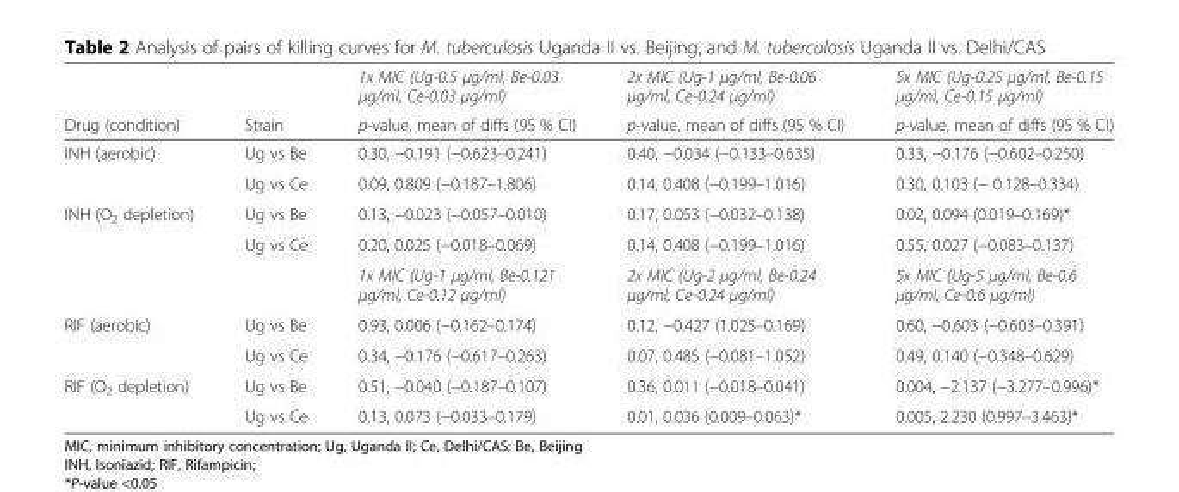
<table><thead><tr><td rowspan="2">Drug (condition)</td><td rowspan="2">Strain</td><td rowspan="2">1x MIC (Ug-0.5 μg/ml, Be-0.03 μg/ml, Ce-0.03 μg/ml) p-value, mean of diffs (95 % CI)</td><td rowspan="2">2x MIC (Ug-1 μg/ml, Be-0.06 μg/ml, Ce-0.24 μg/ml) p-value, mean of diffs (95 % CI)</td><td rowspan="2">5x MIC (Ug-0.25 μg/ml, Be-0.15 μg/ml, Ce-0.15 μg/ml) p-value, mean of diffs (95 % CI)</td></tr><tr></tr></thead><tbody><tr><td rowspan="2">INH (aerobic)</td><td>Ug vs Be</td><td>0.30, −0.191 (−0.623–0.241)</td><td>0.40, −0.034 (−0.133–0.635)</td><td>0.33, −0.176 (−0.602–0.250)</td></tr><tr><td>Ug vs Ce</td><td>0.09, 0.809 (−0.187–1.806)</td><td>0.14, 0.408 (−0.199–1.016)</td><td>0.30, 0.103 (− 0.128–0.334)</td></tr><tr><td rowspan="3">INH (O<sub>2</sub> depletion)</td><td>Ug vs Be</td><td>0.13, −0.023 (−0.057–0.010)</td><td>0.17, 0.053 (−0.032–0.138)</td><td>0.02, 0.094 (0.019–0.169)*</td></tr><tr><td>Ug vs Ce</td><td>0.20, 0.025 (−0.018–0.069)</td><td>0.14, 0.408 (−0.199–1.016)</td><td>0.55, 0.027 (−0.083–0.137)</td></tr><tr><td></td><td>1x MIC (Ug-1 μg/ml, Be-0.121 μg/ml, Ce-0.12 μg/ml)</td><td>2x MIC (Ug-2 μg/ml, Be-0.24 μg/ml, Ce-0.24 μg/ml)</td><td>5x MIC (Ug-5 μg/ml, Be-0.6 μg/ml, Ce-0.6 μg/ml)</td></tr><tr><td rowspan="2">RIF (aerobic)</td><td>Ug vs Be</td><td>0.93, 0.006 (−0.162–0.174)</td><td>0.12, −0.427 (1.025–0.169)</td><td>0.60, −0.603 (−0.603–0.391)</td></tr><tr><td>Ug vs Ce</td><td>0.34, −0.176 (−0.617–0.263)</td><td>0.07, 0.485 (−0.081–1.052)</td><td>0.49, 0.140 (−0.348–0.629)</td></tr><tr><td rowspan="2">RIF (O<sub>2</sub> depletion)</td><td>Ug vs Be</td><td>0.51, −0.040 (−0.187–0.107)</td><td>0.36, 0.011 (−0.018–0.041)</td><td>0.004, −2.137 (−3.277–0.996)*</td></tr><tr><td>Ug vs Ce</td><td>0.13, 0.073 (−0.033–0.179)</td><td>0.01, 0.036 (0.009–0.063)*</td><td>0.005, 2.230 (0.997–3.463)*</td></tr></tbody></table>